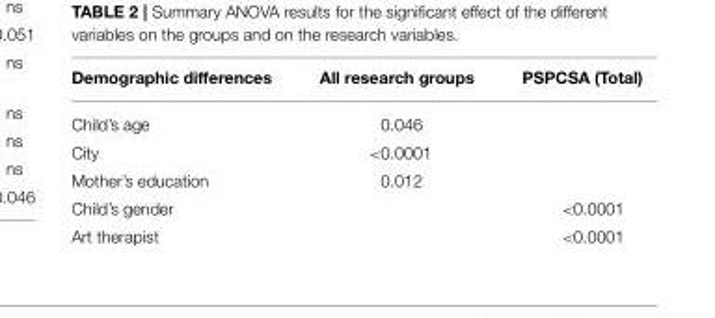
<table><thead><tr><td>Demographic differences</td><td>All research groups</td><td>PSPCSA (Total)</td></tr></thead><tbody><tr><td>Child’s age</td><td>0.046</td><td></td></tr><tr><td>City</td><td>&lt;0.0001</td><td></td></tr><tr><td>Mother’s education</td><td>0.012</td><td></td></tr><tr><td>Child’s gender</td><td></td><td>&lt;0.0001</td></tr><tr><td>Art therapist</td><td></td><td>&lt;0.0001</td></tr></tbody></table>